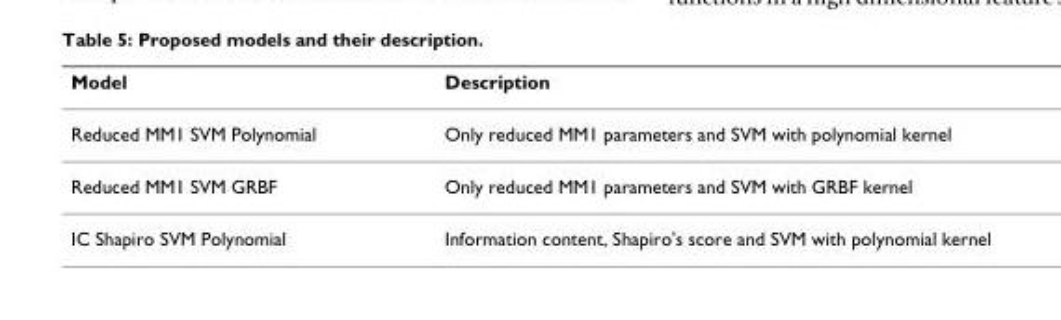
<table><thead><tr><td>Model</td><td>Description</td></tr></thead><tbody><tr><td>Reduced MM1 SVM Polynomial</td><td>Only reduced MM1 parameters and SVM with polynomial kernel</td></tr><tr><td>Reduced MM1 SVM GRBF</td><td>Only reduced MM1 parameters and SVM with GRBF kernel</td></tr><tr><td>IC Shapiro SVM Polynomial</td><td>Information content, Shapiro&#x27;s score and SVM with polynomial kernel</td></tr></tbody></table>